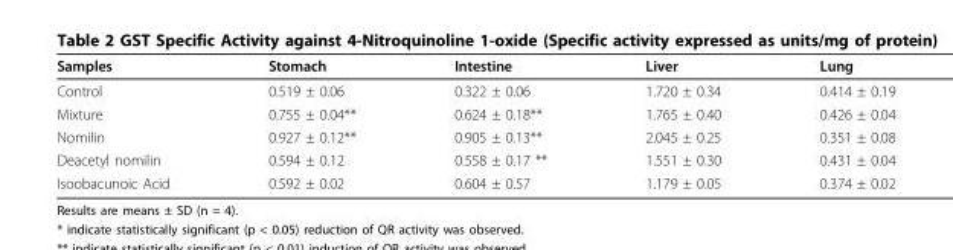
<table><thead><tr><td>Samples</td><td>Stomach</td><td>Intestine</td><td>Liver</td><td>Lung</td></tr></thead><tbody><tr><td>Control</td><td>0.519 ± 0.06</td><td>0.322 ± 0.06</td><td>1.720 ± 0.34</td><td>0.414 ± 0.19</td></tr><tr><td>Mixture</td><td>0.755 ± 0.04**</td><td>0.624 ± 0.18**</td><td>1.765 ± 0.40</td><td>0.426 ± 0.04</td></tr><tr><td>Nomilin</td><td>0.927 ± 0.12**</td><td>0.905 ± 0.13**</td><td>2.045 ± 0.25</td><td>0.351 ± 0.08</td></tr><tr><td>Deacetyl nomilin</td><td>0.594 ± 0.12</td><td>0.558 ± 0.17 **</td><td>1.551 ± 0.30</td><td>0.431 ± 0.04</td></tr><tr><td>Isoobacunoic Acid</td><td>0.592 ± 0.02</td><td>0.604 ± 0.57</td><td>1.179 ± 0.05</td><td>0.374 ± 0.02</td></tr></tbody></table>